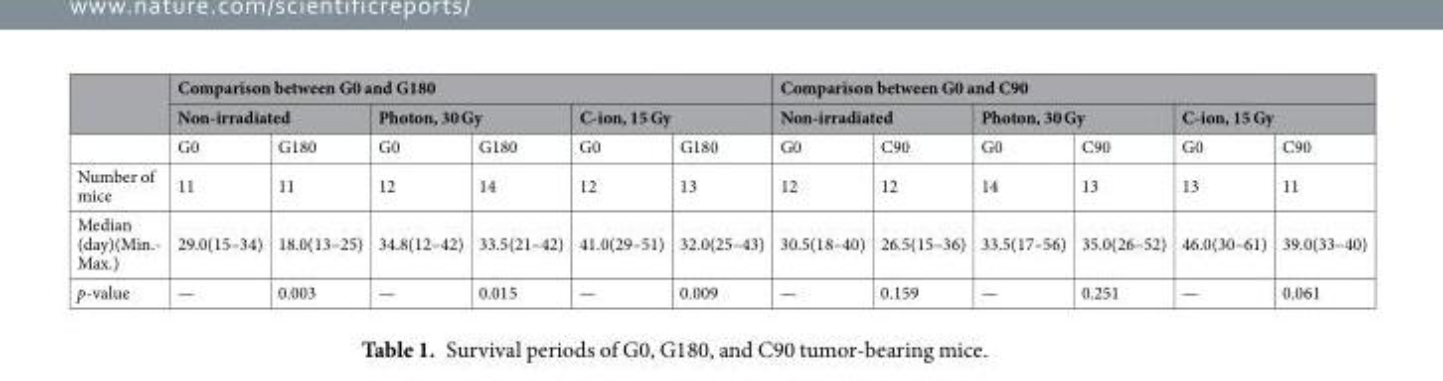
<table><thead><tr><td rowspan="3"></td><td colspan="6">Comparison between G0 and G180</td><td colspan="6">Comparison between G0 and C90</td></tr><tr><td colspan="2">Non-irradiated</td><td colspan="2">Photon, 30 Gy</td><td colspan="2">C-ion, 15 Gy</td><td colspan="2">Non-irradiated</td><td colspan="2">Photon, 30 Gy</td><td colspan="2">C-ion, 15 Gy</td></tr><tr><td>G0</td><td>G180</td><td>G0</td><td>G180</td><td>G0</td><td>G180</td><td>G0</td><td>C90</td><td>G0</td><td>C90</td><td>G0</td><td>C90</td></tr></thead><tbody><tr><td>Number of mice</td><td>11</td><td>11</td><td>12</td><td>14</td><td>12</td><td>13</td><td>12</td><td>12</td><td>14</td><td>13</td><td>13</td><td>11</td></tr><tr><td>Median (day)(Min.- Max.)</td><td>29.0(15–34)</td><td>18.0(13–25)</td><td>34.8(12–42)</td><td>33.5(21–42)</td><td>41.0(29–51)</td><td>32.0(25–43)</td><td>30.5(18–40)</td><td>26.5(15–36)</td><td>33.5(17–56)</td><td>35.0(26–52)</td><td>46.0(30–61)</td><td>39.0(33–40)</td></tr><tr><td>p-value</td><td>—</td><td>0.003</td><td>—</td><td>0.015</td><td>—</td><td>0.009</td><td>—</td><td>0.159</td><td>—</td><td>0.251</td><td>—</td><td>0.061</td></tr></tbody></table>